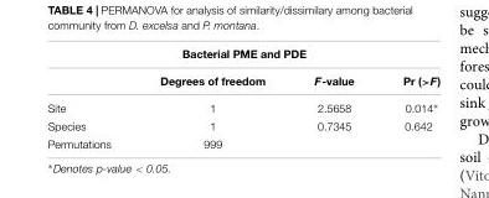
<table><thead><tr><td colspan="4">Bacterial PME and PDE</td></tr><tr><td></td><td>Degrees of freedom</td><td>F-value</td><td>Pr (&gt;F)</td></tr></thead><tbody><tr><td>Site</td><td>1</td><td>2.5658</td><td>0.014∗</td></tr><tr><td>Species</td><td>1</td><td>0.7345</td><td>0.642</td></tr><tr><td>Permutations</td><td>999</td><td></td><td></td></tr></tbody></table>